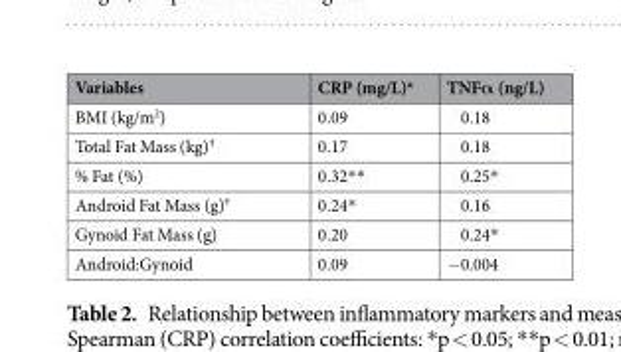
<table><thead><tr><td>Variables</td><td>CRP (mg/L)<sup>a</sup></td><td>TNFα (ng/L)</td></tr></thead><tbody><tr><td>BMI (kg/m<sup>2</sup>)</td><td>0.09</td><td>0.18</td></tr><tr><td>Total Fat Mass (kg)<sup>†</sup></td><td>0.17</td><td>0.18</td></tr><tr><td>% Fat (%)</td><td>0.32**</td><td>0.25*</td></tr><tr><td>Android Fat Mass (g)<sup>†</sup></td><td>0.24*</td><td>0.16</td></tr><tr><td>Gynoid Fat Mass (g)</td><td>0.20</td><td>0.24*</td></tr><tr><td>Android:Gynoid</td><td>0.09</td><td>−0.004</td></tr></tbody></table>